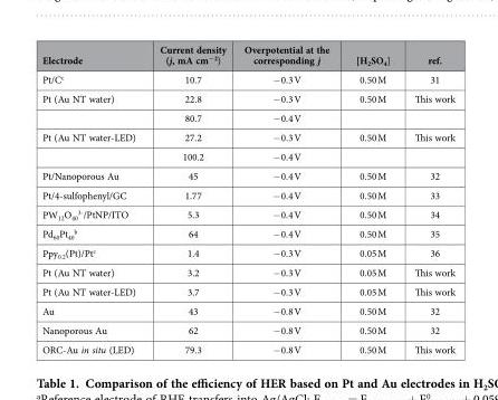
<table><thead><tr><td>Electrode</td><td>Current density (j, mA cm<sup>−2</sup>)</td><td>Overpotential at the corresponding j</td><td>[H<sub>2</sub>SO<sub>4</sub>]</td><td>ref.</td></tr></thead><tbody><tr><td>Pt/C<sup>c</sup></td><td>10.7</td><td>− 0.3 V</td><td>0.50 M</td><td>31</td></tr><tr><td rowspan="2">Pt (Au NT water)</td><td>22.8</td><td>− 0.3 V</td><td>0.50 M</td><td>This work</td></tr><tr><td>80.7</td><td>− 0.4 V</td><td></td><td></td></tr><tr><td rowspan="2">Pt (Au NT water-LED)</td><td>27.2</td><td>− 0.3 V</td><td>0.50 M</td><td>This work</td></tr><tr><td>100.2</td><td>− 0.4 V</td><td></td><td></td></tr><tr><td>Pt/Nanoporous Au</td><td>45</td><td>− 0.4 V</td><td>0.50 M</td><td>32</td></tr><tr><td>Pt/4-sulfophenyl/GC</td><td>1.77</td><td>− 0.4 V</td><td>0.50 M</td><td>33</td></tr><tr><td>PW<sub>12</sub>O<sub>40</sub> <sup>3-</sup>/PtNP/ITO</td><td>5.3</td><td>− 0.4 V</td><td>0.50 M</td><td>34</td></tr><tr><td>Pd<sub>60</sub>Pt<sub>40</sub> <sup>b</sup></td><td>64</td><td>− 0.4 V</td><td>0.50 M</td><td>35</td></tr><tr><td>Ppy<sub>0.2</sub>(Pt)/Pt<sup>c</sup></td><td>1.4</td><td>− 0.3 V</td><td>0.05 M</td><td>36</td></tr><tr><td>Pt (Au NT water)</td><td>3.2</td><td>− 0.3 V</td><td>0.05 M</td><td>This work</td></tr><tr><td>Pt (Au NT water-LED)</td><td>3.7</td><td>− 0.3 V</td><td>0.05 M</td><td>This work</td></tr><tr><td>Au</td><td>43</td><td>− 0.8 V</td><td>0.50 M</td><td>32</td></tr><tr><td>Nanoporous Au</td><td>62</td><td>− 0.8 V</td><td>0.50 M</td><td>32</td></tr><tr><td>ORC-Au in situ (LED)</td><td>79.3</td><td>− 0.8 V</td><td>0.50 M</td><td>This work</td></tr></tbody></table>